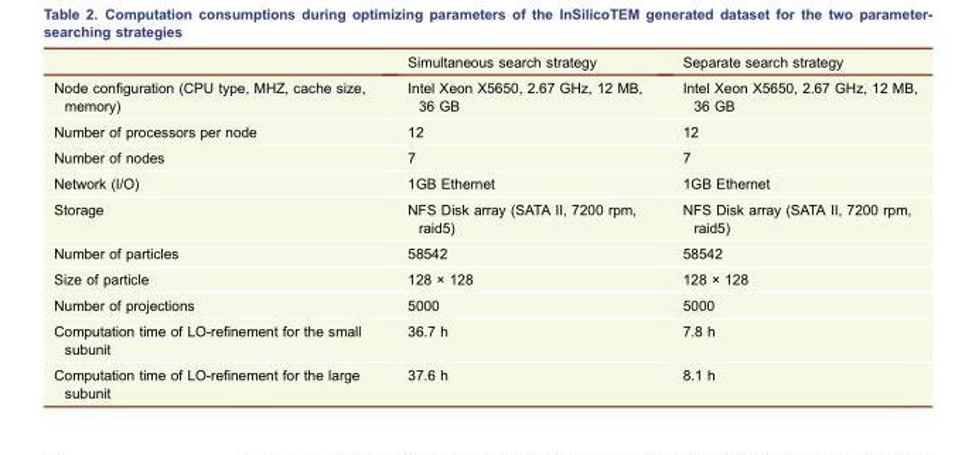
<table><thead><tr><td></td><td>Simultaneous search strategy</td><td>Separate search strategy</td></tr></thead><tbody><tr><td>Node configuration (CPU type, MHZ, cache size, memory)</td><td>Intel Xeon X5650, 2.67 GHz, 12 MB, 36 GB</td><td>Intel Xeon X5650, 2.67 GHz, 12 MB, 36 GB</td></tr><tr><td>Number of processors per node</td><td>12</td><td>12</td></tr><tr><td>Number of nodes</td><td>7</td><td>7</td></tr><tr><td>Network (I/O)</td><td>1GB Ethernet</td><td>1GB Ethernet</td></tr><tr><td>Storage</td><td>NFS Disk array (SATA II, 7200 rpm, raid5)</td><td>NFS Disk array (SATA II, 7200 rpm, raid5)</td></tr><tr><td>Number of particles</td><td>58542</td><td>58542</td></tr><tr><td>Size of particle</td><td>128 × 128</td><td>128 × 128</td></tr><tr><td>Number of projections</td><td>5000</td><td>5000</td></tr><tr><td>Computation time of LO-refinement for the small subunit</td><td>36.7 h</td><td>7.8 h</td></tr><tr><td>Computation time of LO-refinement for the large subunit</td><td>37.6 h</td><td>8.1 h</td></tr></tbody></table>